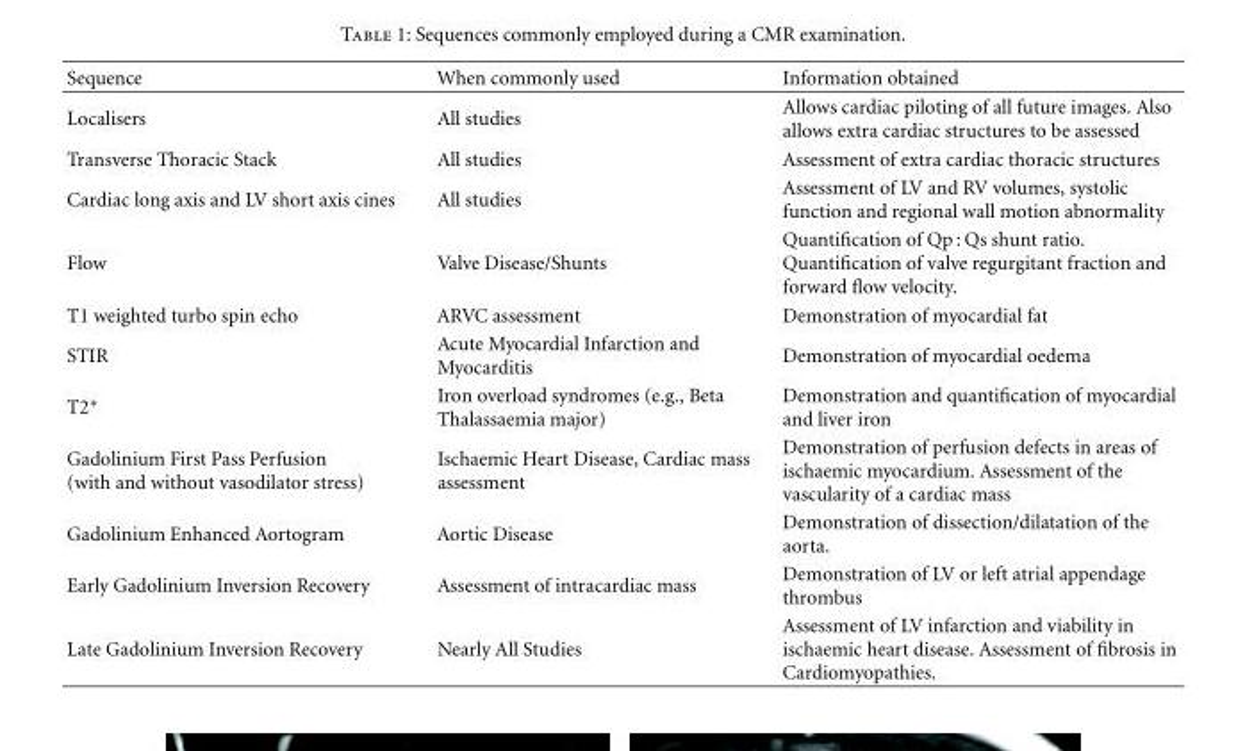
<table><thead><tr><td>Sequence</td><td>When commonly used</td><td>Information obtained</td></tr></thead><tbody><tr><td>Localisers</td><td>All studies</td><td>Allows cardiac piloting of all future images. Also allows extra cardiac structures to be assessed</td></tr><tr><td>Transverse Thoracic Stack</td><td>All studies</td><td>Assessment of extra cardiac thoracic structures</td></tr><tr><td>Cardiac long axis and LV short axis cines</td><td>All studies</td><td>Assessment of LV and RV volumes, systolic function and regional wall motion abnormality</td></tr><tr><td>Flow</td><td>Valve Disease/Shunts</td><td>Quantification of Qp : Qs shunt ratio. Quantification of valve regurgitant fraction and forward flow velocity.</td></tr><tr><td>T1 weighted turbo spin echo</td><td>ARVC assessment</td><td>Demonstration of myocardial fat</td></tr><tr><td>STIR</td><td>Acute Myocardial Infarction and Myocarditis</td><td>Demonstration of myocardial oedema</td></tr><tr><td>T2∗</td><td>Iron overload syndromes (e.g., Beta Thalassaemia major)</td><td>Demonstration and quantification of myocardial and liver iron</td></tr><tr><td>Gadolinium First Pass Perfusion (with and without vasodilator stress)</td><td>Ischaemic Heart Disease, Cardiac mass assessment</td><td>Demonstration of perfusion defects in areas of ischaemic myocardium. Assessment of the vascularity of a cardiac mass</td></tr><tr><td>Gadolinium Enhanced Aortogram</td><td>Aortic Disease</td><td>Demonstration of dissection/dilatation of the aorta.</td></tr><tr><td>Early Gadolinium Inversion Recovery</td><td>Assessment of intracardiac mass</td><td>Demonstration of LV or left atrial appendage thrombus</td></tr><tr><td>Late Gadolinium Inversion Recovery</td><td>Nearly All Studies</td><td>Assessment of LV infarction and viability in ischaemic heart disease. Assessment of fibrosis in Cardiomyopathies.</td></tr></tbody></table>